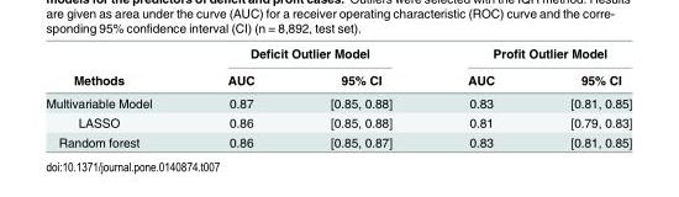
<table><thead><tr><td rowspan="2">Methods</td><td colspan="2">Deficit Outlier Model</td><td colspan="2">Profit Outlier Model</td></tr><tr><td>AUC</td><td>95% CI</td><td>AUC</td><td>95% CI</td></tr></thead><tbody><tr><td>Multivariable Model</td><td>0.87</td><td>[0.85, 0.88]</td><td>0.83</td><td>[0.81, 0.85]</td></tr><tr><td>LASSO</td><td>0.86</td><td>[0.85, 0.88]</td><td>0.81</td><td>[0.79, 0.83]</td></tr><tr><td>Random forest</td><td>0.86</td><td>[0.85, 0.87]</td><td>0.83</td><td>[0.81, 0.85]</td></tr></tbody></table>